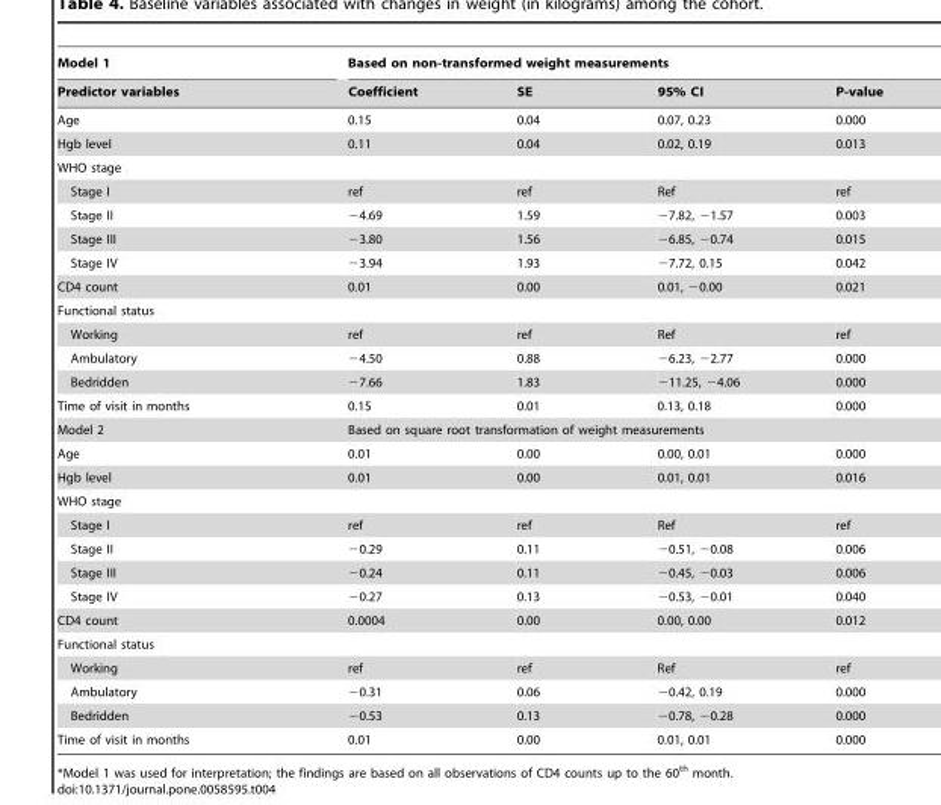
<table><thead><tr><td rowspan="2">Model 1 Predictor variables</td><td colspan="4">Based on non-transformed weight measurements</td></tr><tr><td>Coefficient</td><td>SE</td><td>95% CI</td><td>P-value</td></tr></thead><tbody><tr><td>Age</td><td>0.15</td><td>0.04</td><td>0.07, 0.23</td><td>0.000</td></tr><tr><td>Hgb level</td><td>0.11</td><td>0.04</td><td>0.02, 0.19</td><td>0.013</td></tr><tr><td colspan="5">WHO stage</td></tr><tr><td>Stage I</td><td>ref</td><td>ref</td><td>Ref</td><td>ref</td></tr><tr><td>Stage II</td><td>−4.69</td><td>1.59</td><td>−7.82, −1.57</td><td>0.003</td></tr><tr><td>Stage III</td><td>−3.80</td><td>1.56</td><td>−6.85, −0.74</td><td>0.015</td></tr><tr><td>Stage IV</td><td>−3.94</td><td>1.93</td><td>−7.72, 0.15</td><td>0.042</td></tr><tr><td>CD4 count</td><td>0.01</td><td>0.00</td><td>0.01, −0.00</td><td>0.021</td></tr><tr><td colspan="5">Functional status</td></tr><tr><td>Working</td><td>ref</td><td>ref</td><td>Ref</td><td>ref</td></tr><tr><td>Ambulatory</td><td>−4.50</td><td>0.88</td><td>−6.23, −2.77</td><td>0.000</td></tr><tr><td>Bedridden</td><td>−7.66</td><td>1.83</td><td>−11.25, −4.06</td><td>0.000</td></tr><tr><td>Time of visit in months</td><td>0.15</td><td>0.01</td><td>0.13, 0.18</td><td>0.000</td></tr><tr><td>Model 2</td><td colspan="4">Based on square root transformation of weight measurements</td></tr><tr><td>Age</td><td>0.01</td><td>0.00</td><td>0.00, 0.01</td><td>0.000</td></tr><tr><td>Hgb level</td><td>0.01</td><td>0.00</td><td>0.01, 0.01</td><td>0.016</td></tr><tr><td colspan="5">WHO stage</td></tr><tr><td>Stage I</td><td>ref</td><td>ref</td><td>Ref</td><td>ref</td></tr><tr><td>Stage II</td><td>−0.29</td><td>0.11</td><td>−0.51, −0.08</td><td>0.006</td></tr><tr><td>Stage III</td><td>−0.24</td><td>0.11</td><td>−0.45, −0.03</td><td>0.006</td></tr><tr><td>Stage IV</td><td>−0.27</td><td>0.13</td><td>−0.53, −0.01</td><td>0.040</td></tr><tr><td>CD4 count</td><td>0.0004</td><td>0.00</td><td>0.00, 0.00</td><td>0.012</td></tr><tr><td colspan="5">Functional status</td></tr><tr><td>Working</td><td>ref</td><td>ref</td><td>Ref</td><td>ref</td></tr><tr><td>Ambulatory</td><td>−0.31</td><td>0.06</td><td>−0.42, 0.19</td><td>0.000</td></tr><tr><td>Bedridden</td><td>−0.53</td><td>0.13</td><td>−0.78, −0.28</td><td>0.000</td></tr><tr><td>Time of visit in months</td><td>0.01</td><td>0.00</td><td>0.01, 0.01</td><td>0.000</td></tr></tbody></table>